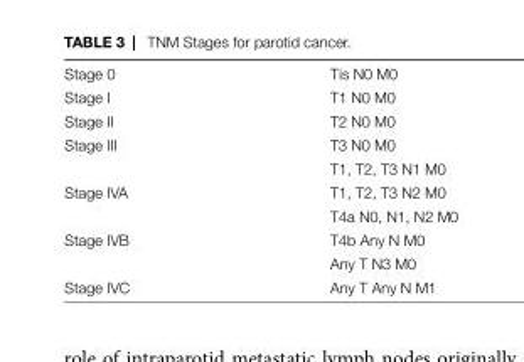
<table><tbody><tr><td>Stage 0</td><td>Tis N0 M0</td></tr><tr><td>Stage I</td><td>T1 N0 M0</td></tr><tr><td>Stage II</td><td>T2 N0 M0</td></tr><tr><td rowspan="2">Stage III</td><td>T3 N0 M0</td></tr><tr><td>T1, T2, T3 N1 M0</td></tr><tr><td rowspan="2">Stage IVA</td><td>T1, T2, T3 N2 M0</td></tr><tr><td>T4a N0, N1, N2 M0</td></tr><tr><td rowspan="2">Stage IVB</td><td>T4b Any N M0</td></tr><tr><td>Any T N3 M0</td></tr><tr><td>Stage IVC</td><td>Any T Any N M1</td></tr></tbody></table>